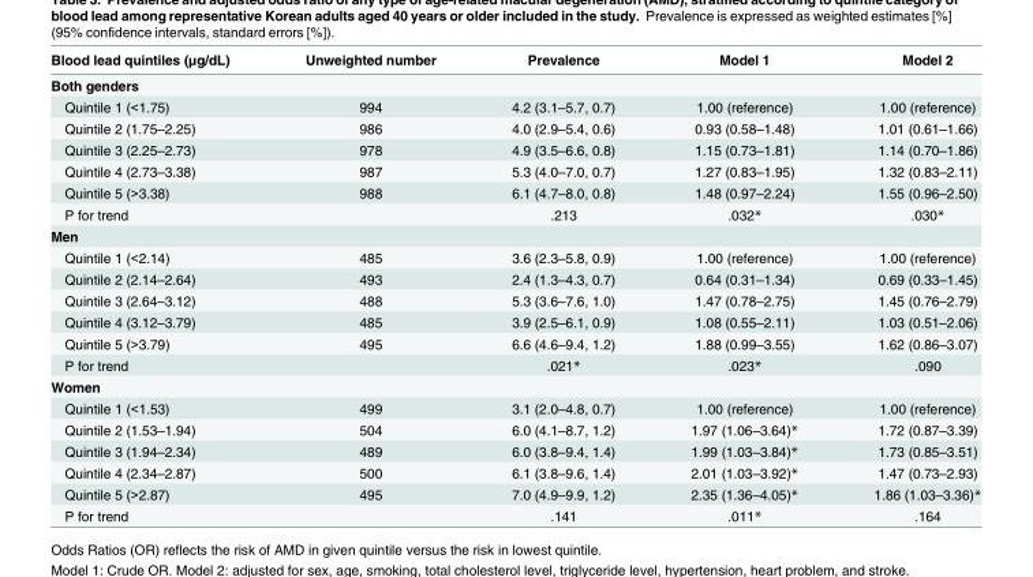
<table><thead><tr><td>Blood lead quintiles (μg/dL)</td><td>Unweighted number</td><td>Prevalence</td><td>Model 1</td><td>Model 2</td></tr></thead><tbody><tr><td colspan="5">Both genders</td></tr><tr><td>Quintile 1 (&lt;1.75)</td><td>994</td><td>4.2 (3.1–5.7, 0.7)</td><td>1.00 (reference)</td><td>1.00 (reference)</td></tr><tr><td>Quintile 2 (1.75–2.25)</td><td>986</td><td>4.0 (2.9–5.4, 0.6)</td><td>0.93 (0.58–1.48)</td><td>1.01 (0.61–1.66)</td></tr><tr><td>Quintile 3 (2.25–2.73)</td><td>978</td><td>4.9 (3.5–6.6, 0.8)</td><td>1.15 (0.73–1.81)</td><td>1.14 (0.70–1.86)</td></tr><tr><td>Quintile 4 (2.73–3.38)</td><td>987</td><td>5.3 (4.0–7.0, 0.7)</td><td>1.27 (0.83–1.95)</td><td>1.32 (0.83–2.11)</td></tr><tr><td>Quintile 5 (&gt;3.38)</td><td>988</td><td>6.1 (4.7–8.0, 0.8)</td><td>1.48 (0.97–2.24)</td><td>1.55 (0.96–2.50)</td></tr><tr><td>P for trend</td><td></td><td>.213</td><td>.032*</td><td>.030*</td></tr><tr><td colspan="5">Men</td></tr><tr><td>Quintile 1 (&lt;2.14)</td><td>485</td><td>3.6 (2.3–5.8, 0.9)</td><td>1.00 (reference)</td><td>1.00 (reference)</td></tr><tr><td>Quintile 2 (2.14–2.64)</td><td>493</td><td>2.4 (1.3–4.3, 0.7)</td><td>0.64 (0.31–1.34)</td><td>0.69 (0.33–1.45)</td></tr><tr><td>Quintile 3 (2.64–3.12)</td><td>488</td><td>5.3 (3.6–7.6, 1.0)</td><td>1.47 (0.78–2.75)</td><td>1.45 (0.76–2.79)</td></tr><tr><td>Quintile 4 (3.12–3.79)</td><td>485</td><td>3.9 (2.5–6.1, 0.9)</td><td>1.08 (0.55–2.11)</td><td>1.03 (0.51–2.06)</td></tr><tr><td>Quintile 5 (&gt;3.79)</td><td>495</td><td>6.6 (4.6–9.4, 1.2)</td><td>1.88 (0.99–3.55)</td><td>1.62 (0.86–3.07)</td></tr><tr><td>P for trend</td><td></td><td>.021*</td><td>.023*</td><td>.090</td></tr><tr><td colspan="5">Women</td></tr><tr><td>Quintile 1 (&lt;1.53)</td><td>499</td><td>3.1 (2.0–4.8, 0.7)</td><td>1.00 (reference)</td><td>1.00 (reference)</td></tr><tr><td>Quintile 2 (1.53–1.94)</td><td>504</td><td>6.0 (4.1–8.7, 1.2)</td><td>1.97 (1.06–3.64)*</td><td>1.72 (0.87–3.39)</td></tr><tr><td>Quintile 3 (1.94–2.34)</td><td>489</td><td>6.0 (3.8–9.4, 1.4)</td><td>1.99 (1.03–3.84)*</td><td>1.73 (0.85–3.51)</td></tr><tr><td>Quintile 4 (2.34–2.87)</td><td>500</td><td>6.1 (3.8–9.6, 1.4)</td><td>2.01 (1.03–3.92)*</td><td>1.47 (0.73–2.93)</td></tr><tr><td>Quintile 5 (&gt;2.87)</td><td>495</td><td>7.0 (4.9–9.9, 1.2)</td><td>2.35 (1.36–4.05)*</td><td>1.86 (1.03–3.36)*</td></tr><tr><td>P for trend</td><td></td><td>.141</td><td>.011*</td><td>.164</td></tr></tbody></table>